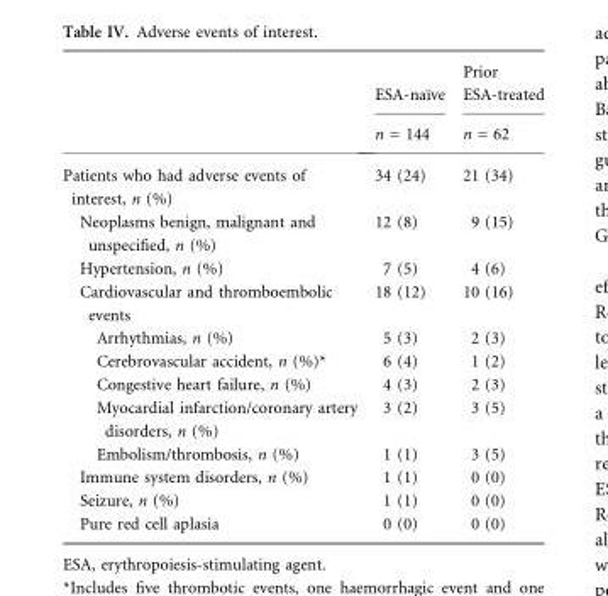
<table><thead><tr><td rowspan="2"></td><td rowspan="2">ESA-naı¨ve n = 144</td><td rowspan="2">Prior ESA-treated n = 62</td></tr><tr></tr></thead><tbody><tr><td>Patients who had adverse events of interest, n (%)</td><td>34 (24)</td><td>21 (34)</td></tr><tr><td>Neoplasms benign, malignant and unspecified, n (%)</td><td>12 (8)</td><td>9 (15)</td></tr><tr><td>Hypertension, n (%)</td><td>7 (5)</td><td>4 (6)</td></tr><tr><td>Cardiovascular and thromboembolic events</td><td>18 (12)</td><td>10 (16)</td></tr><tr><td>Arrhythmias, n (%)</td><td>5 (3)</td><td>2 (3)</td></tr><tr><td>Cerebrovascular accident, n (%)*</td><td>6 (4)</td><td>1 (2)</td></tr><tr><td>Congestive heart failure, n (%)</td><td>4 (3)</td><td>2 (3)</td></tr><tr><td>Myocardial infarction/coronary artery disorders, n (%)</td><td>3 (2)</td><td>3 (5)</td></tr><tr><td>Embolism/thrombosis, n (%)</td><td>1 (1)</td><td>3 (5)</td></tr><tr><td>Immune system disorders, n (%)</td><td>1 (1)</td><td>0 (0)</td></tr><tr><td>Seizure, n (%)</td><td>1 (1)</td><td>0 (0)</td></tr><tr><td>Pure red cell aplasia</td><td>0 (0)</td><td>0 (0)</td></tr></tbody></table>